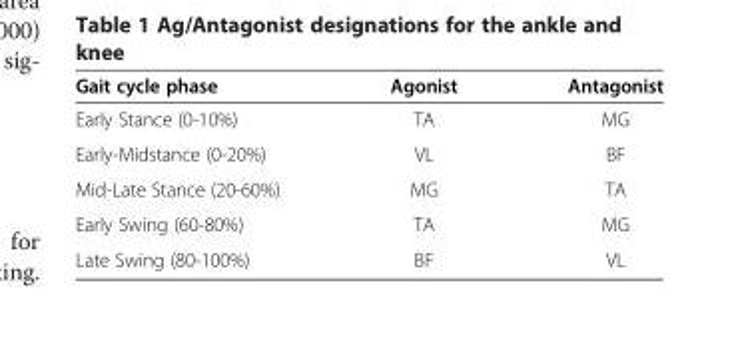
<table><thead><tr><td>Gait cycle phase</td><td>Agonist</td><td>Antagonist</td></tr></thead><tbody><tr><td>Early Stance (0-10%)</td><td>TA</td><td>MG</td></tr><tr><td>Early-Midstance (0-20%)</td><td>VL</td><td>BF</td></tr><tr><td>Mid-Late Stance (20-60%)</td><td>MG</td><td>TA</td></tr><tr><td>Early Swing (60-80%)</td><td>TA</td><td>MG</td></tr><tr><td>Late Swing (80-100%)</td><td>BF</td><td>VL</td></tr></tbody></table>